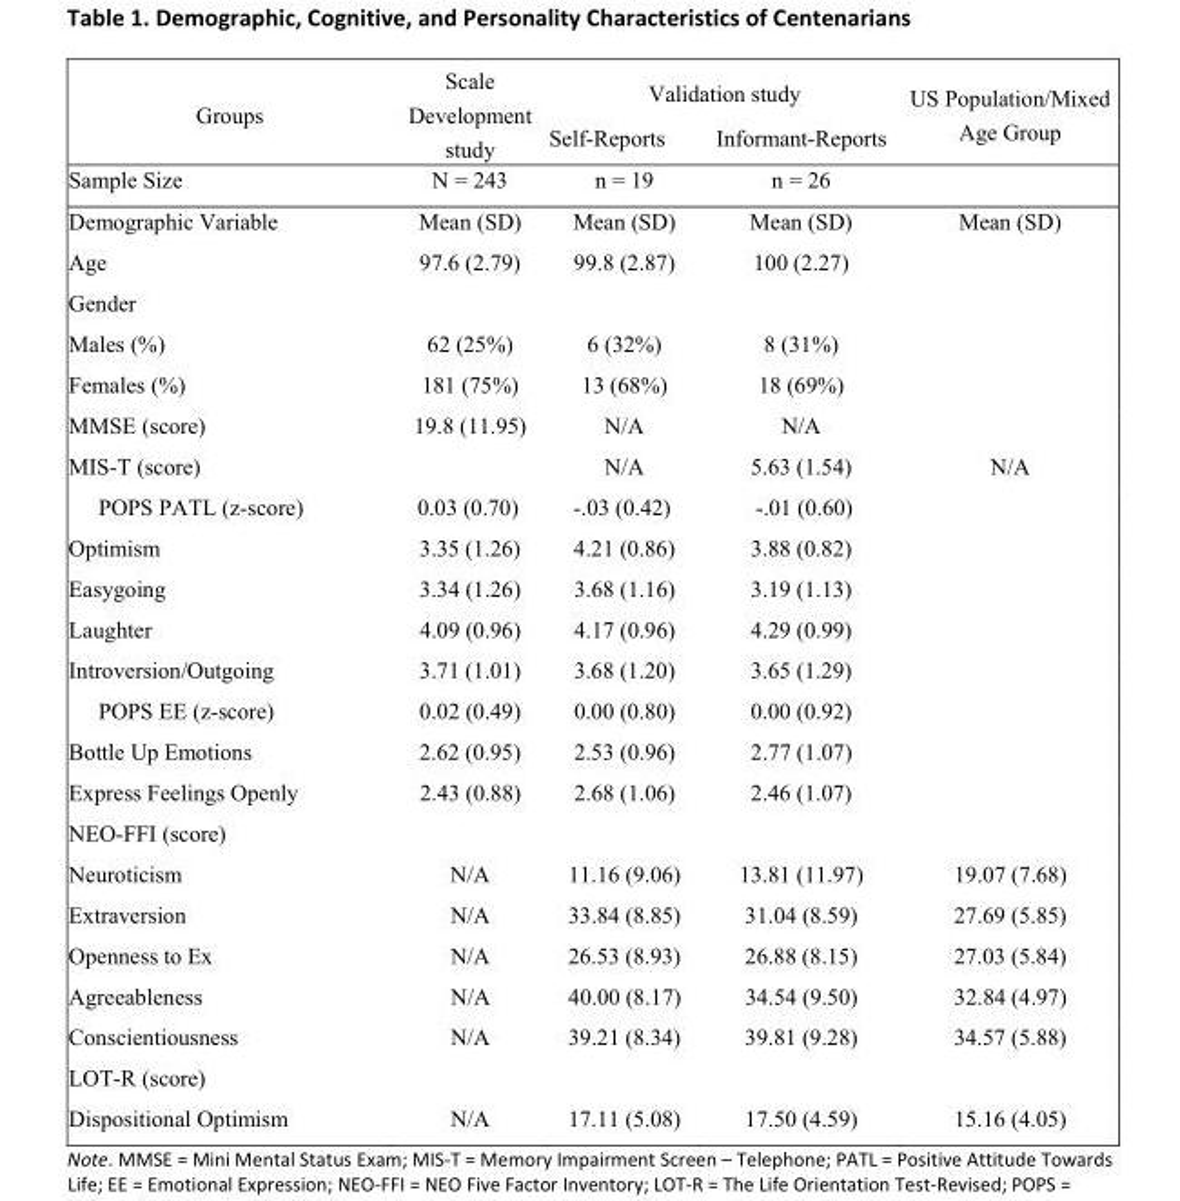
<table><thead><tr><td rowspan="3">Groups Sample Size</td><td rowspan="3">Scale Development study N = 243</td><td colspan="2">Validation study</td><td rowspan="3">US Population/Mixed Age Group</td></tr><tr><td rowspan="2">Self-Reports n = 19</td><td rowspan="2">Informant-Reports n = 26</td></tr><tr></tr></thead><tbody><tr><td>Demographic Variable</td><td>Mean (SD)</td><td>Mean (SD)</td><td>Mean (SD)</td><td>Mean (SD)</td></tr><tr><td>Age</td><td>97.6 (2.79)</td><td>99.8 (2.87)</td><td>100 (2.27)</td><td></td></tr><tr><td colspan="5">Gender</td></tr><tr><td>Males (%)</td><td>62 (25%)</td><td>6 (32%)</td><td>8 (31%)</td><td></td></tr><tr><td>Females (%)</td><td>181 (75%)</td><td>13 (68%)</td><td>18 (69%)</td><td></td></tr><tr><td>MMSE (score)</td><td>19.8 (11.95)</td><td>N/A</td><td>N/A</td><td></td></tr><tr><td>MIS-T (score)</td><td></td><td>N/A</td><td>5.63 (1.54)</td><td>N/A</td></tr><tr><td>POPS PATL (z-score)</td><td>0.03 (0.70)</td><td>-.03 (0.42)</td><td>-.01 (0.60)</td><td></td></tr><tr><td>Optimism</td><td>3.35 (1.26)</td><td>4.21 (0.86)</td><td>3.88 (0.82)</td><td></td></tr><tr><td>Easygoing</td><td>3.34 (1.26)</td><td>3.68 (1.16)</td><td>3.19 (1.13)</td><td></td></tr><tr><td>Laughter</td><td>4.09 (0.96)</td><td>4.17 (0.96)</td><td>4.29 (0.99)</td><td></td></tr><tr><td>Introversion/Outgoing</td><td>3.71 (1.01)</td><td>3.68 (1.20)</td><td>3.65 (1.29)</td><td></td></tr><tr><td>POPS EE (z-score)</td><td>0.02 (0.49)</td><td>0.00 (0.80)</td><td>0.00 (0.92)</td><td></td></tr><tr><td>Bottle Up Emotions</td><td>2.62 (0.95)</td><td>2.53 (0.96)</td><td>2.77 (1.07)</td><td></td></tr><tr><td>Express Feelings Openly</td><td>2.43 (0.88)</td><td>2.68 (1.06)</td><td>2.46 (1.07)</td><td></td></tr><tr><td colspan="5">NEO-FFI (score)</td></tr><tr><td>Neuroticism</td><td>N/A</td><td>11.16 (9.06)</td><td>13.81 (11.97)</td><td>19.07 (7.68)</td></tr><tr><td>Extraversion</td><td>N/A</td><td>33.84 (8.85)</td><td>31.04 (8.59)</td><td>27.69 (5.85)</td></tr><tr><td>Openness to Ex</td><td>N/A</td><td>26.53 (8.93)</td><td>26.88 (8.15)</td><td>27.03 (5.84)</td></tr><tr><td>Agreeableness</td><td>N/A</td><td>40.00 (8.17)</td><td>34.54 (9.50)</td><td>32.84 (4.97)</td></tr><tr><td>Conscientiousness</td><td>N/A</td><td>39.21 (8.34)</td><td>39.81 (9.28)</td><td>34.57 (5.88)</td></tr><tr><td colspan="5">LOT-R (score)</td></tr><tr><td>Dispositional Optimism</td><td>N/A</td><td>17.11 (5.08)</td><td>17.50 (4.59)</td><td>15.16 (4.05)</td></tr></tbody></table>